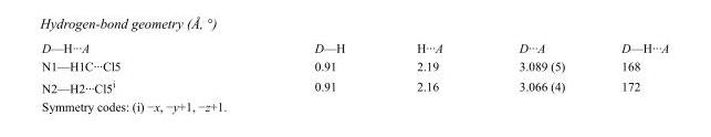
<table><tbody><tr><td>D—H···A</td><td>D—H</td><td>H···A</td><td>D···A</td><td>D—H···A</td></tr><tr><td>N1—H1C···Cl5</td><td>0.91</td><td>2.19</td><td>3.089 (5)</td><td>168</td></tr><tr><td>N2—H2···Cl5<sup>i</sup></td><td>0.91</td><td>2.16</td><td>3.066 (4)</td><td>172</td></tr></tbody></table>